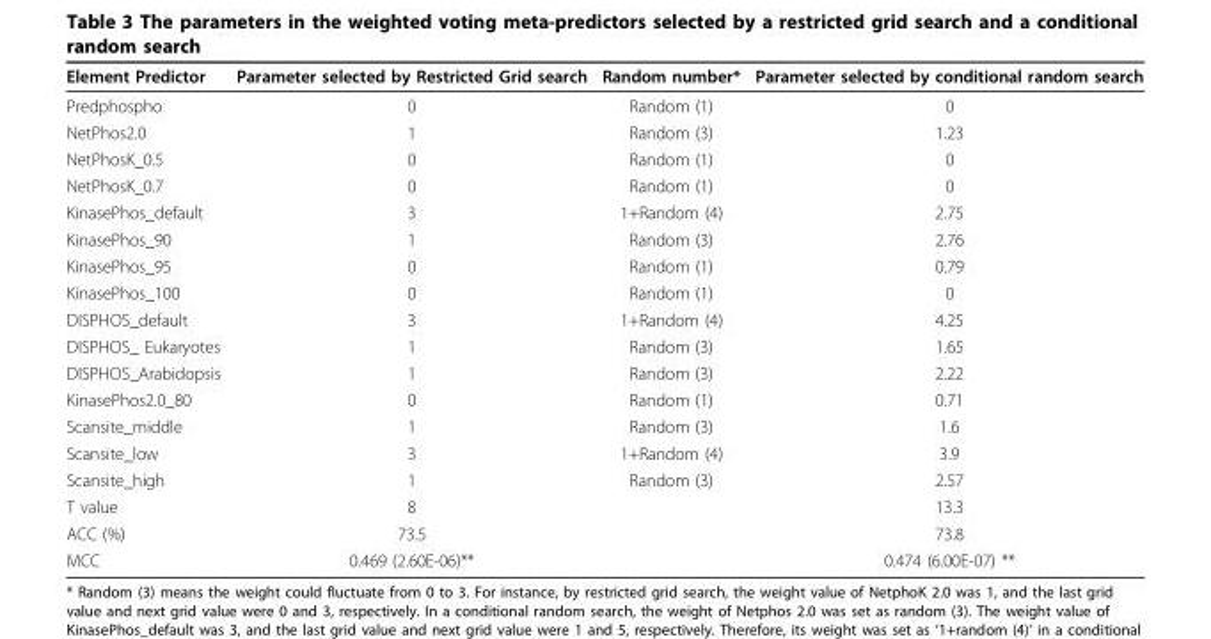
<table><thead><tr><td>Element Predictor</td><td>Parameter selected by Restricted Grid search</td><td>Random number*</td><td>Parameter selected by conditional random search</td></tr></thead><tbody><tr><td>Predphospho</td><td>0</td><td>Random (1)</td><td>0</td></tr><tr><td>NetPhos2.0</td><td>1</td><td>Random (3)</td><td>1.23</td></tr><tr><td>NetPhosK_0.5</td><td>0</td><td>Random (1)</td><td>0</td></tr><tr><td>NetPhosK_0.7</td><td>0</td><td>Random (1)</td><td>0</td></tr><tr><td>KinasePhos_default</td><td>3</td><td>1+Random (4)</td><td>2.75</td></tr><tr><td>KinasePhos_90</td><td>1</td><td>Random (3)</td><td>2.76</td></tr><tr><td>KinasePhos_95</td><td>0</td><td>Random (1)</td><td>0.79</td></tr><tr><td>KinasePhos_100</td><td>0</td><td>Random (1)</td><td>0</td></tr><tr><td>DISPHOS_default</td><td>3</td><td>1+Random (4)</td><td>4.25</td></tr><tr><td>DISPHOS_ Eukaryotes</td><td>1</td><td>Random (3)</td><td>1.65</td></tr><tr><td>DISPHOS_Arabidopsis</td><td>1</td><td>Random (3)</td><td>2.22</td></tr><tr><td>KinasePhos2.0_80</td><td>0</td><td>Random (1)</td><td>0.71</td></tr><tr><td>Scansite_middle</td><td>1</td><td>Random (3)</td><td>1.6</td></tr><tr><td>Scansite_low</td><td>3</td><td>1+Random (4)</td><td>3.9</td></tr><tr><td>Scansite_high</td><td>1</td><td>Random (3)</td><td>2.57</td></tr><tr><td>T value</td><td>8</td><td></td><td>13.3</td></tr><tr><td>ACC (%)</td><td>73.5</td><td></td><td>73.8</td></tr><tr><td>MCC</td><td>0.469 (2.60E-06)**</td><td></td><td>0.474 (6.00E-07) **</td></tr></tbody></table>